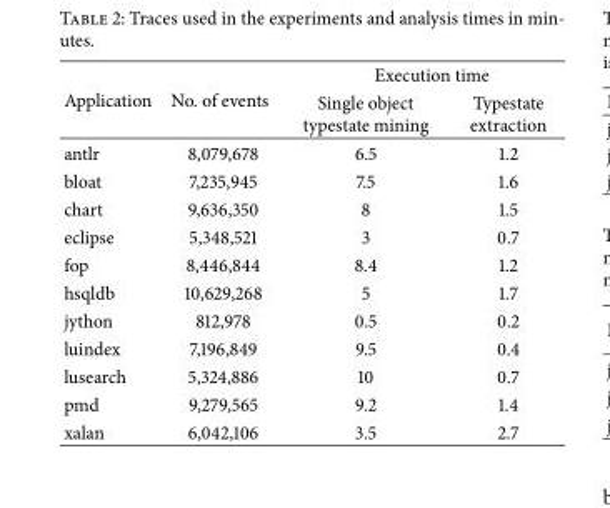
<table><thead><tr><td rowspan="2">Application</td><td rowspan="2">No. of events</td><td colspan="2">Execution time</td></tr><tr><td>Single object typestate mining</td><td>Typestate extraction</td></tr></thead><tbody><tr><td>antlr</td><td>8,079,678</td><td>6.5</td><td>1.2</td></tr><tr><td>bloat</td><td>7,235,945</td><td>7.5</td><td>1.6</td></tr><tr><td>chart</td><td>9,636,350</td><td>8</td><td>1.5</td></tr><tr><td>eclipse</td><td>5,348,521</td><td>3</td><td>0.7</td></tr><tr><td>fop</td><td>8,446,844</td><td>8.4</td><td>1.2</td></tr><tr><td>hsqldb</td><td>10,629,268</td><td>5</td><td>1.7</td></tr><tr><td>jython</td><td>812,978</td><td>0.5</td><td>0.2</td></tr><tr><td>luindex</td><td>7,196,849</td><td>9.5</td><td>0.4</td></tr><tr><td>lusearch</td><td>5,324,886</td><td>10</td><td>0.7</td></tr><tr><td>pmd</td><td>9,279,565</td><td>9.2</td><td>1.4</td></tr><tr><td>xalan</td><td>6,042,106</td><td>3.5</td><td>2.7</td></tr></tbody></table>